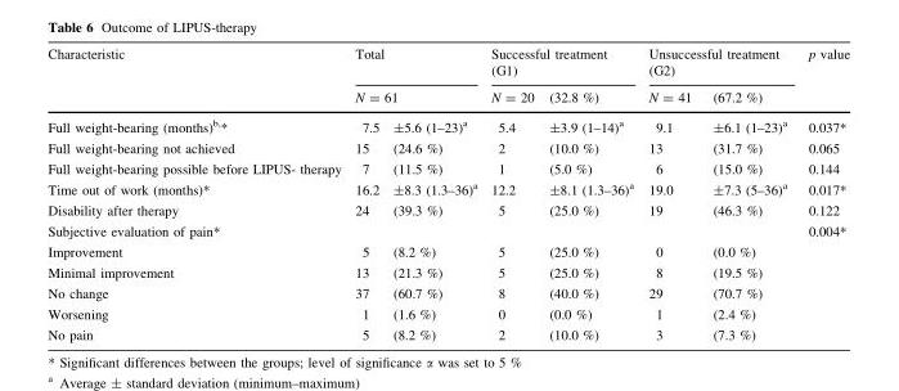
<table><thead><tr><td rowspan="3">Characteristic Full weight-bearing (months)<sup>b,</sup>*</td><td rowspan="2" colspan="2">Total N = 61</td><td colspan="2">Successful treatment (G1)</td><td colspan="2">Unsuccessful treatment (G2)</td><td rowspan="3">p value 0.037*</td></tr><tr><td rowspan="2">N = 20 5.4</td><td rowspan="2">(32.8 %) ±3.9 (1–14)<sup>a</sup></td><td rowspan="2">N = 41 9.1</td><td rowspan="2">(67.2 %) ±6.1 (1–23)<sup>a</sup></td></tr><tr><td>7.5</td><td>±5.6 (1–23)<sup>a</sup></td></tr></thead><tbody><tr><td>Full weight-bearing not achieved</td><td>15</td><td>(24.6 %)</td><td>2</td><td>(10.0 %)</td><td>13</td><td>(31.7 %)</td><td>0.065</td></tr><tr><td>Full weight-bearing possible before LIPUS- therapy</td><td>7</td><td>(11.5 %)</td><td>1</td><td>(5.0 %)</td><td>6</td><td>(15.0 %)</td><td>0.144</td></tr><tr><td>Time out of work (months)*</td><td>16.2</td><td>±8.3 (1.3–36)<sup>a</sup></td><td>12.2</td><td>±8.1 (1.3–36)<sup>a</sup></td><td>19.0</td><td>±7.3 (5–36)<sup>a</sup></td><td>0.017*</td></tr><tr><td>Disability after therapy</td><td>24</td><td>(39.3 %)</td><td>5</td><td>(25.0 %)</td><td>19</td><td>(46.3 %)</td><td>0.122</td></tr><tr><td>Subjective evaluation of pain*</td><td></td><td></td><td></td><td></td><td></td><td></td><td>0.004*</td></tr><tr><td>Improvement</td><td>5</td><td>(8.2 %)</td><td>5</td><td>(25.0 %)</td><td>0</td><td>(0.0 %)</td><td></td></tr><tr><td>Minimal improvement</td><td>13</td><td>(21.3 %)</td><td>5</td><td>(25.0 %)</td><td>8</td><td>(19.5 %)</td><td></td></tr><tr><td>No change</td><td>37</td><td>(60.7 %)</td><td>8</td><td>(40.0 %)</td><td>29</td><td>(70.7 %)</td><td></td></tr><tr><td>Worsening</td><td>1</td><td>(1.6 %)</td><td>0</td><td>(0.0 %)</td><td>1</td><td>(2.4 %)</td><td></td></tr><tr><td>No pain</td><td>5</td><td>(8.2 %)</td><td>2</td><td>(10.0 %)</td><td>3</td><td>(7.3 %)</td><td></td></tr></tbody></table>